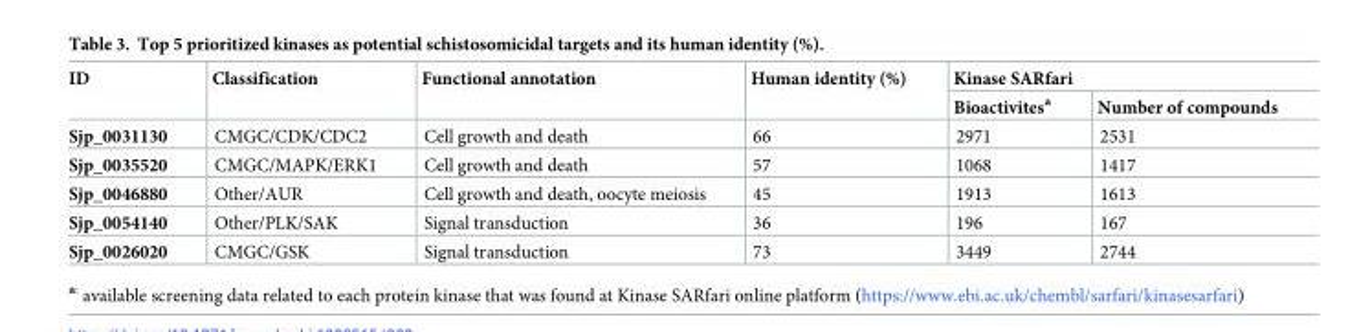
<table><thead><tr><td rowspan="2">ID</td><td rowspan="2">Classification</td><td rowspan="2">Functional annotation</td><td rowspan="2">Human identity (%)</td><td colspan="2">Kinase SARfari</td></tr><tr><td>Bioactivites<sup>a</sup></td><td>Number of compounds</td></tr></thead><tbody><tr><td>Sjp_0031130</td><td>CMGC/CDK/CDC2</td><td>Cell growth and death</td><td>66</td><td>2971</td><td>2531</td></tr><tr><td>Sjp_0035520</td><td>CMGC/MAPK/ERK1</td><td>Cell growth and death</td><td>57</td><td>1068</td><td>1417</td></tr><tr><td>Sjp_0046880</td><td>Other/AUR</td><td>Cell growth and death, oocyte meiosis</td><td>45</td><td>1913</td><td>1613</td></tr><tr><td>Sjp_0054140</td><td>Other/PLK/SAK</td><td>Signal transduction</td><td>36</td><td>196</td><td>167</td></tr><tr><td>Sjp_0026020</td><td>CMGC/GSK</td><td>Signal transduction</td><td>73</td><td>3449</td><td>2744</td></tr></tbody></table>